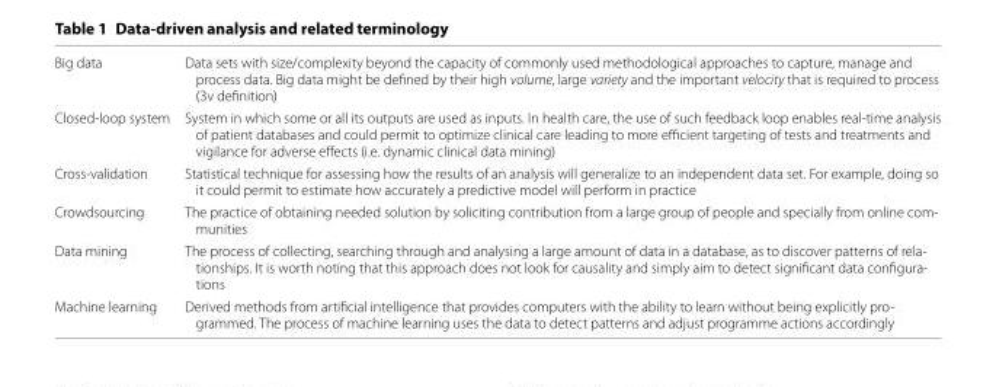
<table><tbody><tr><td>Big data</td><td>Data sets with size/complexity beyond the capacity of commonly used methodological approaches to capture, manage and process data. Big data might be defined by their high volume, large variety and the important velocity that is required to process (3v definition)</td></tr><tr><td>Closed‑loop system</td><td>System in which some or all its outputs are used as inputs. In health care, the use of such feedback loop enables real‑time analysis of patient databases and could permit to optimize clinical care leading to more efficient targeting of tests and treatments and vigilance for adverse effects (i.e. dynamic clinical data mining)</td></tr><tr><td>Cross‑validation</td><td>Statistical technique for assessing how the results of an analysis will generalize to an independent data set. For example, doing so it could permit to estimate how accurately a predictive model will perform in practice</td></tr><tr><td>Crowdsourcing</td><td>The practice of obtaining needed solution by soliciting contribution from a large group of people and specially from online com‑ munities</td></tr><tr><td>Data mining</td><td>The process of collecting, searching through and analysing a large amount of data in a database, as to discover patterns of rela‑ tionships. It is worth noting that this approach does not look for causality and simply aim to detect significant data configura‑ tions</td></tr><tr><td>Machine learning</td><td>Derived methods from artificial intelligence that provides computers with the ability to learn without being explicitly pro‑ grammed. The process of machine learning uses the data to detect patterns and adjust programme actions accordingly</td></tr></tbody></table>